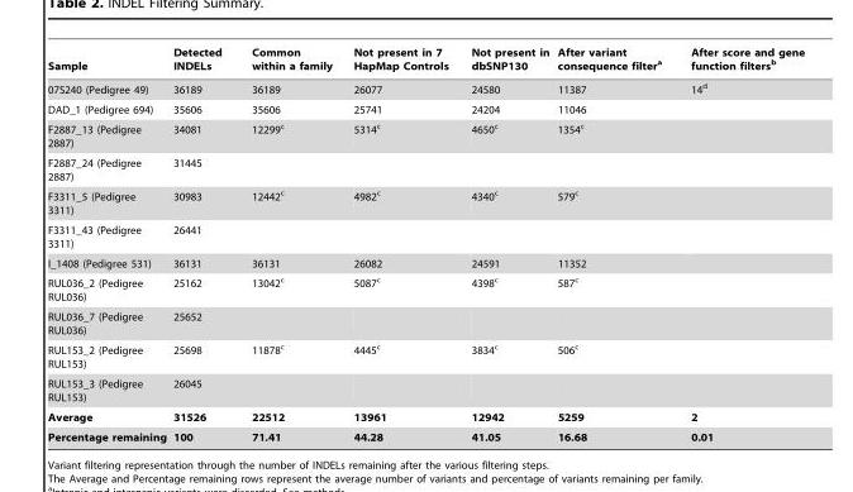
<table><thead><tr><td>Sample</td><td>Detected INDELs</td><td>Common within a family</td><td>Not present in 7 HapMap Controls</td><td>Not present in dbSNP130</td><td>After variant consequence filter<sup>a</sup></td><td>After score and gene function filters<sup>b</sup></td></tr></thead><tbody><tr><td>07S240 (Pedigree 49)</td><td>36189</td><td>36189</td><td>26077</td><td>24580</td><td>11387</td><td>14<sup>d</sup></td></tr><tr><td>DAD_1 (Pedigree 694)</td><td>35606</td><td>35606</td><td>25741</td><td>24204</td><td>11046</td><td></td></tr><tr><td>F2887_13 (Pedigree 2887)</td><td>34081</td><td>12299<sup>c</sup></td><td>5314<sup>c</sup></td><td>4650<sup>c</sup></td><td>1354<sup>c</sup></td><td></td></tr><tr><td>F2887_24 (Pedigree 2887)</td><td>31445</td><td></td><td></td><td></td><td></td><td></td></tr><tr><td>F3311_5 (Pedigree 3311)</td><td>30983</td><td>12442<sup>c</sup></td><td>4982<sup>c</sup></td><td>4340<sup>c</sup></td><td>579<sup>c</sup></td><td></td></tr><tr><td>F3311_43 (Pedigree 3311)</td><td>26441</td><td></td><td></td><td></td><td></td><td></td></tr><tr><td>I_1408 (Pedigree 531)</td><td>36131</td><td>36131</td><td>26082</td><td>24591</td><td>11352</td><td></td></tr><tr><td>RUL036_2 (Pedigree RUL036)</td><td>25162</td><td>13042<sup>c</sup></td><td>5087<sup>c</sup></td><td>4398<sup>c</sup></td><td>587<sup>c</sup></td><td></td></tr><tr><td>RUL036_7 (Pedigree RUL036)</td><td>25652</td><td></td><td></td><td></td><td></td><td></td></tr><tr><td>RUL153_2 (Pedigree RUL153)</td><td>25698</td><td>11878<sup>c</sup></td><td>4445<sup>c</sup></td><td>3834<sup>c</sup></td><td>506<sup>c</sup></td><td></td></tr><tr><td>RUL153_3 (Pedigree RUL153)</td><td>26045</td><td></td><td></td><td></td><td></td><td></td></tr><tr><td>Average</td><td>31526</td><td>22512</td><td>13961</td><td>12942</td><td>5259</td><td>2</td></tr><tr><td>Percentage remaining</td><td>100</td><td>71.41</td><td>44.28</td><td>41.05</td><td>16.68</td><td>0.01</td></tr></tbody></table>